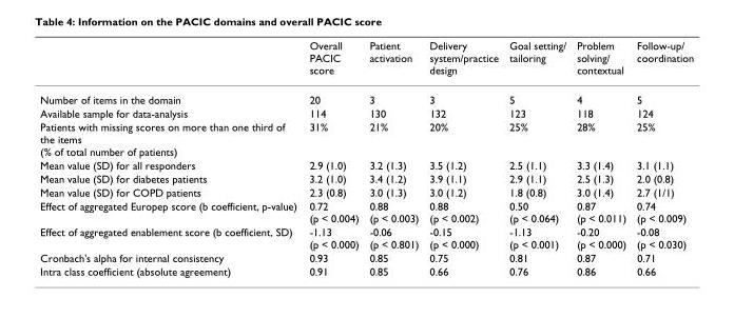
<table><thead><tr><td></td><td>Overall PACIC score</td><td>Patient activation</td><td>Delivery system/practice design</td><td>Goal setting/ tailoring</td><td>Problem solving/ contextual</td><td>Follow-up/ coordination</td></tr></thead><tbody><tr><td>Number of items in the domain</td><td>20</td><td>3</td><td>3</td><td>5</td><td>4</td><td>5</td></tr><tr><td>Available sample for data-analysis</td><td>114</td><td>130</td><td>132</td><td>123</td><td>118</td><td>124</td></tr><tr><td>Patients with missing scores on more than one third of the items (% of total number of patients)</td><td>31%</td><td>21%</td><td>20%</td><td>25%</td><td>28%</td><td>25%</td></tr><tr><td>Mean value (SD) for all responders</td><td>2.9 (1.0)</td><td>3.2 (1.3)</td><td>3.5 (1.2)</td><td>2.5 (1.1)</td><td>3.3 (1.4)</td><td>3.1 (1.1)</td></tr><tr><td>Mean value (SD) for diabetes patients</td><td>3.2 (1.0)</td><td>3.4 (1.2)</td><td>3.9 (1.1)</td><td>2.9 (1.1)</td><td>2.5 (1.3)</td><td>2.0 (0.8)</td></tr><tr><td>Mean value (SD) for COPD patients</td><td>2.3 (0.8)</td><td>3.0 (1.3)</td><td>3.0 (1.2)</td><td>1.8 (0.8)</td><td>3.0 (1.4)</td><td>2.7 (1/1)</td></tr><tr><td>Effect of aggregated Europep score (b coefficient, p-value)</td><td>0.72 (p &lt; 0.004)</td><td>0.88 (p &lt; 0.003)</td><td>0.88 (p &lt; 0.002)</td><td>0.50 (p &lt; 0.064)</td><td>0.87 (p &lt; 0.011)</td><td>0.74 (p &lt; 0.009)</td></tr><tr><td>Effect of aggregated enablement score (b coefficient, SD)</td><td>-1.13 (p &lt; 0.000)</td><td>-0.06 (p &lt; 0.801)</td><td>-0.15 (p &lt; 0.000)</td><td>-1.13 (p &lt; 0.001)</td><td>-0.20 (p &lt; 0.000)</td><td>-0.08 (p &lt; 0.030)</td></tr><tr><td>Cronbach&#x27;s alpha for internal consistency</td><td>0.93</td><td>0.85</td><td>0.75</td><td>0.81</td><td>0.87</td><td>0.71</td></tr><tr><td>Intra class coefficient (absolute agreement)</td><td>0.91</td><td>0.85</td><td>0.66</td><td>0.76</td><td>0.86</td><td>0.66</td></tr></tbody></table>